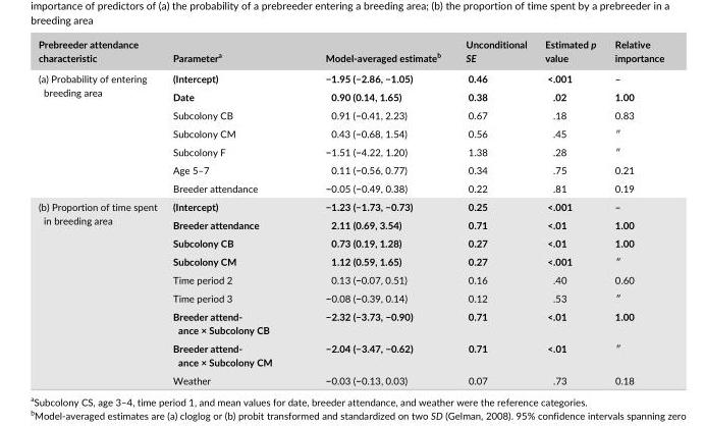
<table><thead><tr><td>Prebreeder attendance characteristic</td><td>Parameter<sup>a</sup></td><td>Model- averaged estimate<sup>b</sup></td><td>Unconditional SE</td><td>Estimated p value</td><td>Relative importance</td></tr></thead><tbody><tr><td rowspan="7">(a) Probability of entering breeding area</td><td>(Intercept)</td><td>−1.95 (−2.86, −1.05)</td><td>0.46</td><td>&lt;.001</td><td>–</td></tr><tr><td>Date</td><td>0.90 (0.14, 1.65)</td><td>0.38</td><td>.02</td><td>1.00</td></tr><tr><td>Subcolony CB</td><td>0.91 (−0.41, 2.23)</td><td>0.67</td><td>.18</td><td>0.83</td></tr><tr><td>Subcolony CM</td><td>0.43 (−0.68, 1.54)</td><td>0.56</td><td>.45</td><td>″</td></tr><tr><td>Subcolony F</td><td>−1.51 (−4.22, 1.20)</td><td>1.38</td><td>.28</td><td>″</td></tr><tr><td>Age 5–7</td><td>0.11 (−0.56, 0.77)</td><td>0.34</td><td>.75</td><td>0.21</td></tr><tr><td>Breeder attendance</td><td>−0.05 (−0.49, 0.38)</td><td>0.22</td><td>.81</td><td>0.19</td></tr><tr><td rowspan="9">(b) Proportion of time spent in breeding area</td><td>(Intercept)</td><td>−1.23 (−1.73, −0.73)</td><td>0.25</td><td>&lt;.001</td><td>–</td></tr><tr><td>Breeder attendance</td><td>2.11 (0.69, 3.54)</td><td>0.71</td><td>&lt;.01</td><td>1.00</td></tr><tr><td>Subcolony CB</td><td>0.73 (0.19, 1.28)</td><td>0.27</td><td>&lt;.01</td><td>1.00</td></tr><tr><td>Subcolony CM</td><td>1.12 (0.59, 1.65)</td><td>0.27</td><td>&lt;.001</td><td>″</td></tr><tr><td>Time period 2</td><td>0.13 (−0.07, 0.51)</td><td>0.16</td><td>.40</td><td>0.60</td></tr><tr><td>Time period 3</td><td>−0.08 (−0.39, 0.14)</td><td>0.12</td><td>.53</td><td>″</td></tr><tr><td>Breeder attend- ance × Subcolony CB</td><td>−2.32 (−3.73, −0.90)</td><td>0.71</td><td>&lt;.01</td><td>1.00</td></tr><tr><td>Breeder attend- ance × Subcolony CM</td><td>−2.04 (−3.47, −0.62)</td><td>0.71</td><td>&lt;.01</td><td>″</td></tr><tr><td>Weather</td><td>−0.03 (−0.13, 0.03)</td><td>0.07</td><td>.73</td><td>0.18</td></tr></tbody></table>